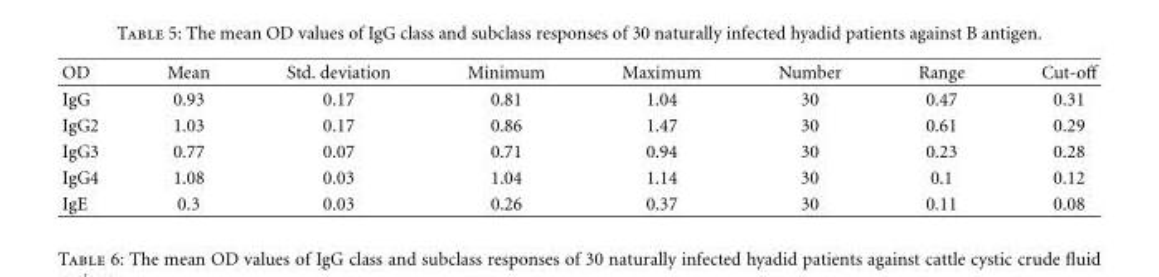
<table><thead><tr><td>OD</td><td>Mean</td><td>Std. deviation</td><td>Minimum</td><td>Maximum</td><td>Number</td><td>Range</td><td>Cut-off</td></tr></thead><tbody><tr><td>IgG</td><td>0.93</td><td>0.17</td><td>0.81</td><td>1.04</td><td>30</td><td>0.47</td><td>0.31</td></tr><tr><td>IgG2</td><td>1.03</td><td>0.17</td><td>0.86</td><td>1.47</td><td>30</td><td>0.61</td><td>0.29</td></tr><tr><td>IgG3</td><td>0.77</td><td>0.07</td><td>0.71</td><td>0.94</td><td>30</td><td>0.23</td><td>0.28</td></tr><tr><td>IgG4</td><td>1.08</td><td>0.03</td><td>1.04</td><td>1.14</td><td>30</td><td>0.1</td><td>0.12</td></tr><tr><td>IgE</td><td>0.3</td><td>0.03</td><td>0.26</td><td>0.37</td><td>30</td><td>0.11</td><td>0.08</td></tr></tbody></table>